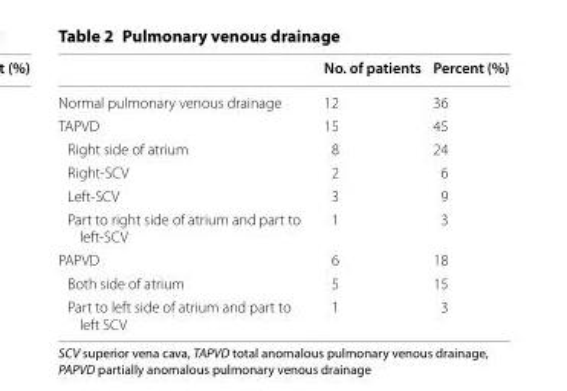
<table><thead><tr><td></td><td>No. of patients</td><td>Percent (%)</td></tr></thead><tbody><tr><td>Normal pulmonary venous drainage</td><td>12</td><td>36</td></tr><tr><td>TAPVD</td><td>15</td><td>45</td></tr><tr><td>Right side of atrium</td><td>8</td><td>24</td></tr><tr><td>Right-SCV</td><td>2</td><td>6</td></tr><tr><td>Left-SCV</td><td>3</td><td>9</td></tr><tr><td>Part to right side of atrium and part to left-SCV</td><td>1</td><td>3</td></tr><tr><td>PAPVD</td><td>6</td><td>18</td></tr><tr><td>Both side of atrium</td><td>5</td><td>15</td></tr><tr><td>Part to left side of atrium and part to left SCV</td><td>1</td><td>3</td></tr></tbody></table>